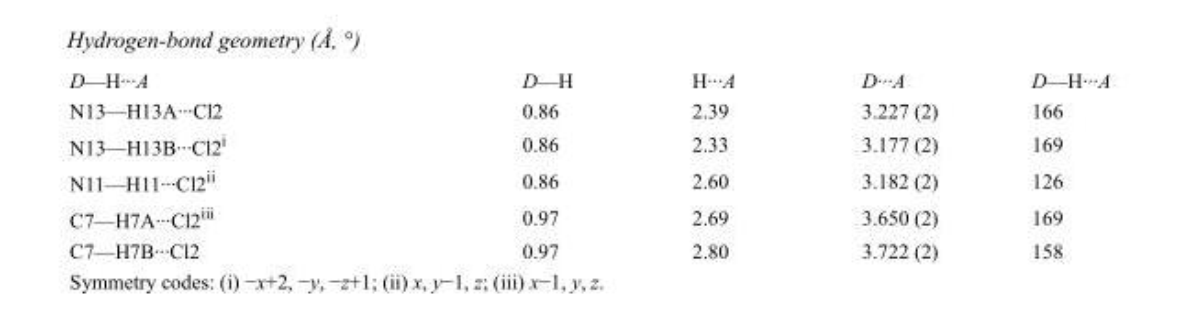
<table><tbody><tr><td>D—H···A</td><td>D—H</td><td>H···A</td><td>D···A</td><td>D—H···A</td></tr><tr><td>N13—H13A···Cl2</td><td>0.86</td><td>2.39</td><td>3.227 (2)</td><td>166</td></tr><tr><td>N13—H13B···Cl2<sup>i</sup></td><td>0.86</td><td>2.33</td><td>3.177 (2)</td><td>169</td></tr><tr><td>N11—H11···Cl2<sup>ii</sup></td><td>0.86</td><td>2.60</td><td>3.182 (2)</td><td>126</td></tr><tr><td>C7—H7A···Cl2<sup>iii</sup></td><td>0.97</td><td>2.69</td><td>3.650 (2)</td><td>169</td></tr><tr><td>C7—H7B···Cl2</td><td>0.97</td><td>2.80</td><td>3.722 (2)</td><td>158</td></tr></tbody></table>